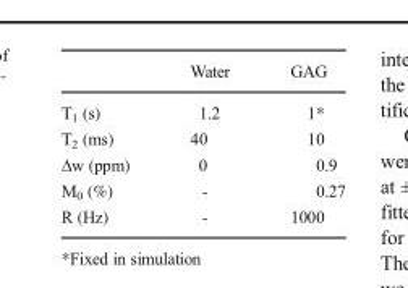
<table><thead><tr><td></td><td>Water</td><td>GAG</td></tr></thead><tbody><tr><td>T<sub>1</sub> (s)</td><td>1.2</td><td>1*</td></tr><tr><td>T<sub>2</sub> (ms)</td><td>40</td><td>10</td></tr><tr><td>Δw (ppm)</td><td>0</td><td>0.9</td></tr><tr><td>M<sub>0</sub> (%)</td><td>-</td><td>0.27</td></tr><tr><td>R (Hz)</td><td>-</td><td>1000</td></tr></tbody></table>